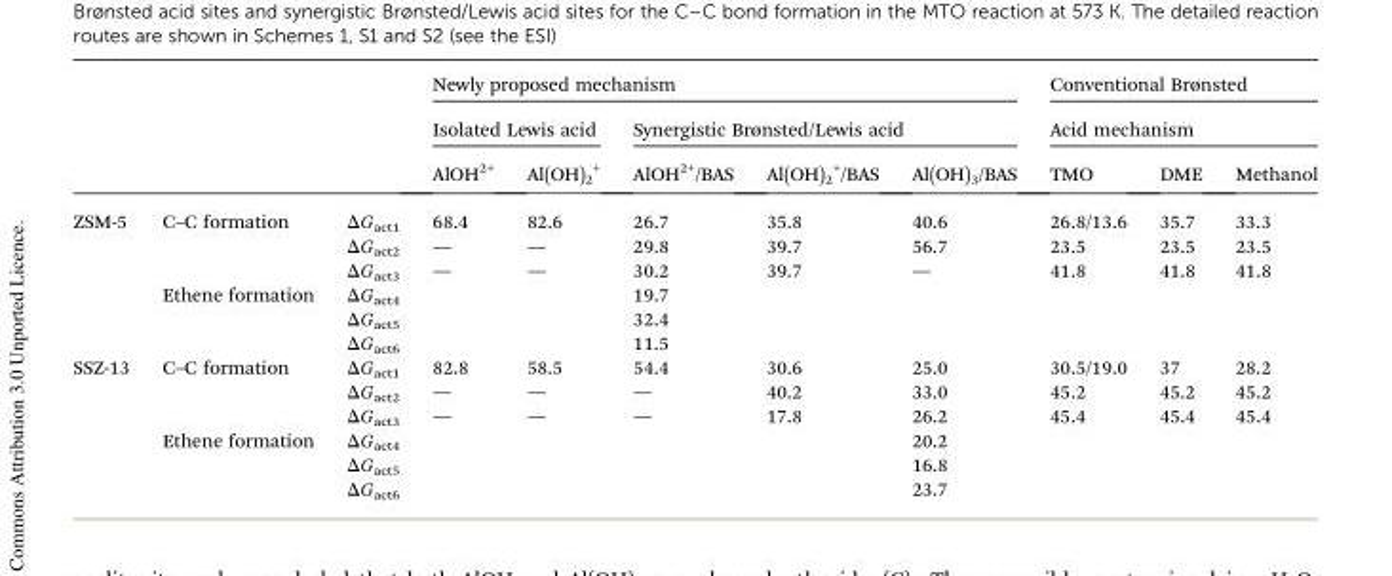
<table><thead><tr><td rowspan="3"></td><td rowspan="3"></td><td rowspan="3"></td><td colspan="5">Newly proposed mechanism</td><td rowspan="2" colspan="3">Conventional Brønsted Acid mechanism</td></tr><tr><td colspan="2">Isolated Lewis acid</td><td colspan="3">Synergistic Brønsted/Lewis acid</td></tr><tr><td>AlOH<sup>2+</sup></td><td>Al(OH)<sub>2</sub> <sup>+</sup></td><td>AlOH<sup>2+</sup>/BAS</td><td>Al(OH)<sub>2</sub> <sup>+</sup>/BAS</td><td>Al(OH)<sub>3</sub>/BAS</td><td>TMO</td><td>DME</td><td>Methanol</td></tr></thead><tbody><tr><td rowspan="6">ZSM-5</td><td rowspan="3">C–C formation</td><td>ΔG<sub>act1</sub></td><td>68.4</td><td>82.6</td><td>26.7</td><td>35.8</td><td>40.6</td><td>26.8/13.6</td><td>35.7</td><td>33.3</td></tr><tr><td>ΔG<sub>act2</sub></td><td>—</td><td>—</td><td>29.8</td><td>39.7</td><td>56.7</td><td>23.5</td><td>23.5</td><td>23.5</td></tr><tr><td>ΔG<sub>act3</sub></td><td>—</td><td>—</td><td>30.2</td><td>39.7</td><td>—</td><td>41.8</td><td>41.8</td><td>41.8</td></tr><tr><td rowspan="3">Ethene formation</td><td>ΔG<sub>act4</sub></td><td></td><td></td><td>19.7</td><td></td><td></td><td></td><td></td><td></td></tr><tr><td>ΔG<sub>act5</sub></td><td></td><td></td><td>32.4</td><td></td><td></td><td></td><td></td><td></td></tr><tr><td>ΔG<sub>act6</sub></td><td></td><td></td><td>11.5</td><td></td><td></td><td></td><td></td><td></td></tr><tr><td rowspan="6">SSZ-13</td><td rowspan="3">C–C formation</td><td>ΔG<sub>act1</sub></td><td>82.8</td><td>58.5</td><td>54.4</td><td>30.6</td><td>25.0</td><td>30.5/19.0</td><td>37</td><td>28.2</td></tr><tr><td>ΔG<sub>act2</sub></td><td>—</td><td>—</td><td>—</td><td>40.2</td><td>33.0</td><td>45.2</td><td>45.2</td><td>45.2</td></tr><tr><td>ΔG<sub>act3</sub></td><td>—</td><td>—</td><td>—</td><td>17.8</td><td>26.2</td><td>45.4</td><td>45.4</td><td>45.4</td></tr><tr><td rowspan="3">Ethene formation</td><td>ΔG<sub>act4</sub></td><td></td><td></td><td></td><td></td><td>20.2</td><td></td><td></td><td></td></tr><tr><td>ΔG<sub>act5</sub></td><td></td><td></td><td></td><td></td><td>16.8</td><td></td><td></td><td></td></tr><tr><td>ΔG<sub>act6</sub></td><td></td><td></td><td></td><td></td><td>23.7</td><td></td><td></td><td></td></tr></tbody></table>